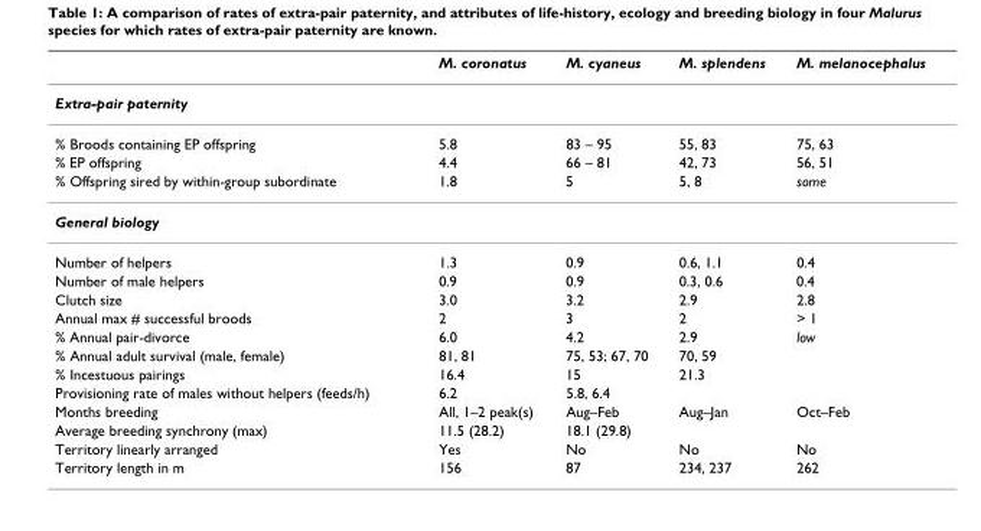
<table><thead><tr><td></td><td>M. coronatus</td><td>M. cyaneus</td><td>M. splendens</td><td>M. melanocephalus</td></tr></thead><tbody><tr><td colspan="5">Extra-pair paternity</td></tr><tr><td>% Broods containing EP offspring</td><td>5.8</td><td>83 – 95</td><td>55, 83</td><td>75, 63</td></tr><tr><td>% EP offspring</td><td>4.4</td><td>66 – 81</td><td>42, 73</td><td>56, 51</td></tr><tr><td>% Offspring sired by within-group subordinate</td><td>1.8</td><td>5</td><td>5, 8</td><td>some</td></tr><tr><td colspan="5">General biology</td></tr><tr><td>Number of helpers</td><td>1.3</td><td>0.9</td><td>0.6, 1.1</td><td>0.4</td></tr><tr><td>Number of male helpers</td><td>0.9</td><td>0.9</td><td>0.3, 0.6</td><td>0.4</td></tr><tr><td>Clutch size</td><td>3.0</td><td>3.2</td><td>2.9</td><td>2.8</td></tr><tr><td>Annual max # successful broods</td><td>2</td><td>3</td><td>2</td><td>&gt; 1</td></tr><tr><td>% Annual pair-divorce</td><td>6.0</td><td>4.2</td><td>2.9</td><td>low</td></tr><tr><td>% Annual adult survival (male, female)</td><td>81, 81</td><td>75, 53; 67, 70</td><td>70, 59</td><td></td></tr><tr><td>% Incestuous pairings</td><td>16.4</td><td>15</td><td>21.3</td><td></td></tr><tr><td>Provisioning rate of males without helpers (feeds/h)</td><td>6.2</td><td>5.8, 6.4</td><td></td><td></td></tr><tr><td>Months breeding</td><td>All, 1–2 peak(s)</td><td>Aug–Feb</td><td>Aug–Jan</td><td>Oct–Feb</td></tr><tr><td>Average breeding synchrony (max)</td><td>11.5 (28.2)</td><td>18.1 (29.8)</td><td></td><td></td></tr><tr><td>Territory linearly arranged</td><td>Yes</td><td>No</td><td>No</td><td>No</td></tr><tr><td>Territory length in m</td><td>156</td><td>87</td><td>234, 237</td><td>262</td></tr></tbody></table>